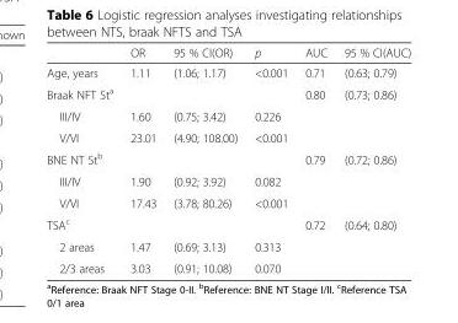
<table><thead><tr><td></td><td>OR</td><td>95 % CI(OR)</td><td>p</td><td>AUC</td><td>95 % CI(AUC)</td></tr></thead><tbody><tr><td>Age, years</td><td>1.11</td><td>(1.06; 1.17)</td><td>&lt;0.001</td><td>0.71</td><td>(0.63; 0.79)</td></tr><tr><td>Braak NFT St<sup>a</sup></td><td></td><td></td><td></td><td>0.80</td><td>(0.73; 0.86)</td></tr><tr><td>III/IV</td><td>1.60</td><td>(0.75; 3.42)</td><td>0.226</td><td></td><td></td></tr><tr><td>V/VI</td><td>23.01</td><td>(4.90; 108.00)</td><td>&lt;0.001</td><td></td><td></td></tr><tr><td>BNE NT St<sup>b</sup></td><td></td><td></td><td></td><td>0.79</td><td>(0.72; 0.86)</td></tr><tr><td>III/IV</td><td>1.90</td><td>(0.92; 3.92)</td><td>0.082</td><td></td><td></td></tr><tr><td>V/VI</td><td>17.43</td><td>(3.78; 80.26)</td><td>&lt;0.001</td><td></td><td></td></tr><tr><td>TSA<sup>c</sup></td><td></td><td></td><td></td><td>0.72</td><td>(0.64; 0.80)</td></tr><tr><td>2 areas</td><td>1.47</td><td>(0.69; 3.13)</td><td>0.313</td><td></td><td></td></tr><tr><td>2/3 areas</td><td>3.03</td><td>(0.91; 10.08)</td><td>0.070</td><td></td><td></td></tr></tbody></table>